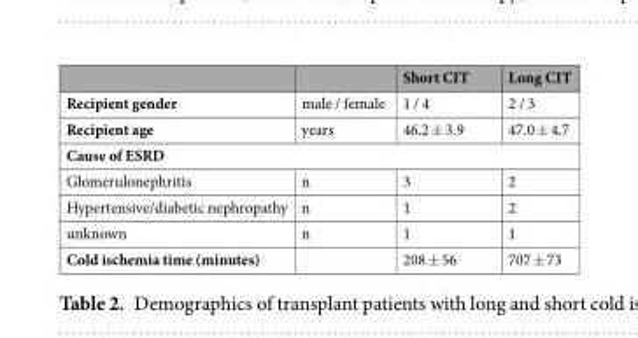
<table><thead><tr><td></td><td></td><td>Short CIT</td><td>Long CIT</td></tr></thead><tbody><tr><td>Recipient gender</td><td>male / female</td><td>1 / 4</td><td>2 / 3</td></tr><tr><td>Recipient age</td><td>years</td><td>46.2 ± 3.9</td><td>47.0 ± 4.7</td></tr><tr><td colspan="4">Cause of ESRD</td></tr><tr><td>Glomerulonephritis</td><td>n</td><td>3</td><td>2</td></tr><tr><td>Hypertensive/diabetic nephropathy</td><td>n</td><td>1</td><td>2</td></tr><tr><td>unknown</td><td>n</td><td>1</td><td>1</td></tr><tr><td>Cold ischemia time (minutes)</td><td></td><td>208 ± 56</td><td>707 ± 73</td></tr></tbody></table>